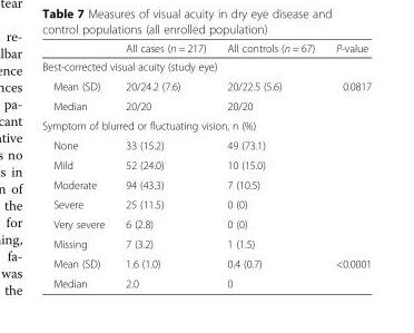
<table><thead><tr><td></td><td>All cases (n = 217)</td><td>All controls (n = 67)</td><td>P-value</td></tr></thead><tbody><tr><td colspan="4">Best-corrected visual acuity (study eye)</td></tr><tr><td>Mean (SD)</td><td>20/24.2 (7.6)</td><td>20/22.5 (5.6)</td><td>0.0817</td></tr><tr><td>Median</td><td>20/20</td><td>20/20</td><td></td></tr><tr><td colspan="4">Symptom of blurred or fluctuating vision, n (%)</td></tr><tr><td>None</td><td>33 (15.2)</td><td>49 (73.1)</td><td></td></tr><tr><td>Mild</td><td>52 (24.0)</td><td>10 (15.0)</td><td></td></tr><tr><td>Moderate</td><td>94 (43.3)</td><td>7 (10.5)</td><td></td></tr><tr><td>Severe</td><td>25 (11.5)</td><td>0 (0)</td><td></td></tr><tr><td>Very severe</td><td>6 (2.8)</td><td>0 (0)</td><td></td></tr><tr><td>Missing</td><td>7 (3.2)</td><td>1 (1.5)</td><td></td></tr><tr><td>Mean (SD)</td><td>1.6 (1.0)</td><td>0.4 (0.7)</td><td>&lt;0.0001</td></tr><tr><td>Median</td><td>2.0</td><td>0</td><td></td></tr></tbody></table>